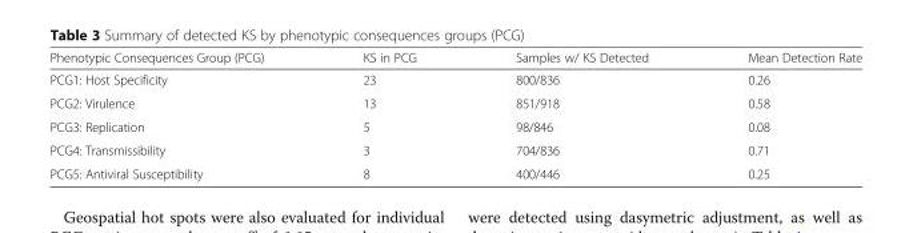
<table><thead><tr><td>Phenotypic Consequences Group (PCG)</td><td>KS in PCG</td><td>Samples w/ KS Detected</td><td>Mean Detection Rate</td></tr></thead><tbody><tr><td>PCG1: Host Specificity</td><td>23</td><td>800/836</td><td>0.26</td></tr><tr><td>PCG2: Virulence</td><td>13</td><td>851/918</td><td>0.58</td></tr><tr><td>PCG3: Replication</td><td>5</td><td>98/846</td><td>0.08</td></tr><tr><td>PCG4: Transmissibility</td><td>3</td><td>704/836</td><td>0.71</td></tr><tr><td>PCG5: Antiviral Susceptibility</td><td>8</td><td>400/446</td><td>0.25</td></tr></tbody></table>